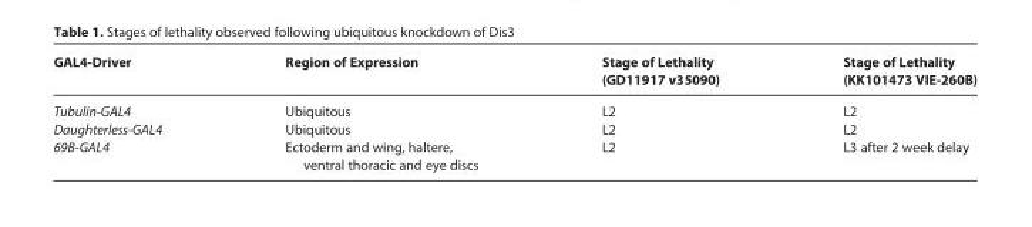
<table><thead><tr><td>GAL4-Driver</td><td>Region of Expression</td><td>Stage of Lethality (GD11917 v35090)</td><td>Stage of Lethality (KK101473 VIE-260B)</td></tr></thead><tbody><tr><td>Tubulin-GAL4</td><td>Ubiquitous</td><td>L2</td><td>L2</td></tr><tr><td>Daughterless-GAL4</td><td>Ubiquitous</td><td>L2</td><td>L2</td></tr><tr><td>69B-GAL4</td><td>Ectoderm and wing, haltere, ventral thoracic and eye discs</td><td>L2</td><td>L3 after 2 week delay</td></tr></tbody></table>